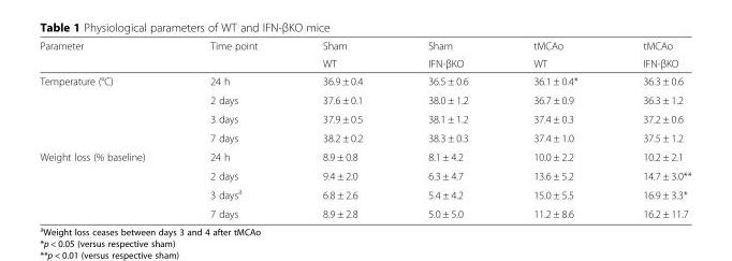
<table><thead><tr><td rowspan="2">Parameter</td><td rowspan="2">Time point</td><td rowspan="2">Sham WT</td><td rowspan="2">Sham IFN-βKO</td><td rowspan="2">tMCAo WT</td><td rowspan="2">tMCAo IFN-βKO</td></tr><tr></tr></thead><tbody><tr><td rowspan="4">Temperature (°C)</td><td>24 h</td><td>36.9 ± 0.4</td><td>36.5 ± 0.6</td><td>36.1 ± 0.4*</td><td>36.3 ± 0.6</td></tr><tr><td>2 days</td><td>37.6 ± 0.1</td><td>38.0 ± 1.2</td><td>36.7 ± 0.9</td><td>36.3 ± 1.2</td></tr><tr><td>3 days</td><td>37.9 ± 0.5</td><td>38.1 ± 1.2</td><td>37.4 ± 0.3</td><td>37.2 ± 0.6</td></tr><tr><td>7 days</td><td>38.2 ± 0.2</td><td>38.3 ± 0.3</td><td>37.4 ± 1.0</td><td>37.5 ± 1.2</td></tr><tr><td rowspan="4">Weight loss (% baseline)</td><td>24 h</td><td>8.9 ± 0.8</td><td>8.1 ± 4.2</td><td>10.0 ± 2.2</td><td>10.2 ± 2.1</td></tr><tr><td>2 days</td><td>9.4 ± 2.0</td><td>6.3 ± 4.7</td><td>13.6 ± 5.2</td><td>14.7 ± 3.0**</td></tr><tr><td>3 days<sup>a</sup></td><td>6.8 ± 2.6</td><td>5.4 ± 4.2</td><td>15.0 ± 5.5</td><td>16.9 ± 3.3*</td></tr><tr><td>7 days</td><td>8.9 ± 2.8</td><td>5.0 ± 5.0</td><td>11.2 ± 8.6</td><td>16.2 ± 11.7</td></tr></tbody></table>